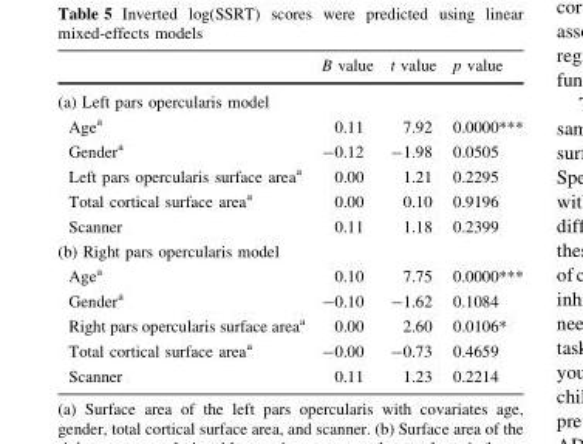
<table><thead><tr><td></td><td>B value</td><td>t value</td><td>p value</td></tr></thead><tbody><tr><td colspan="4">(a) Left pars opercularis model</td></tr><tr><td>Age<sup>a</sup></td><td>0.11</td><td>7.92</td><td>0.0000***</td></tr><tr><td>Gender<sup>a</sup></td><td>-0.12</td><td>-1.98</td><td>0.0505</td></tr><tr><td>Left pars opercularis surface area<sup>a</sup></td><td>0.00</td><td>1.21</td><td>0.2295</td></tr><tr><td>Total cortical surface area<sup>a</sup></td><td>0.00</td><td>0.10</td><td>0.9196</td></tr><tr><td>Scanner</td><td>0.11</td><td>1.18</td><td>0.2399</td></tr><tr><td colspan="4">(b) Right pars opercularis model</td></tr><tr><td>Age<sup>a</sup></td><td>0.10</td><td>7.75</td><td>0.0000***</td></tr><tr><td>Gender<sup>a</sup></td><td>-0.10</td><td>-1.62</td><td>0.1084</td></tr><tr><td>Right pars opercularis surface area<sup>a</sup></td><td>0.00</td><td>2.60</td><td>0.0106*</td></tr><tr><td>Total cortical surface area<sup>a</sup></td><td>-0.00</td><td>-0.73</td><td>0.4659</td></tr><tr><td>Scanner</td><td>0.11</td><td>1.23</td><td>0.2214</td></tr></tbody></table>